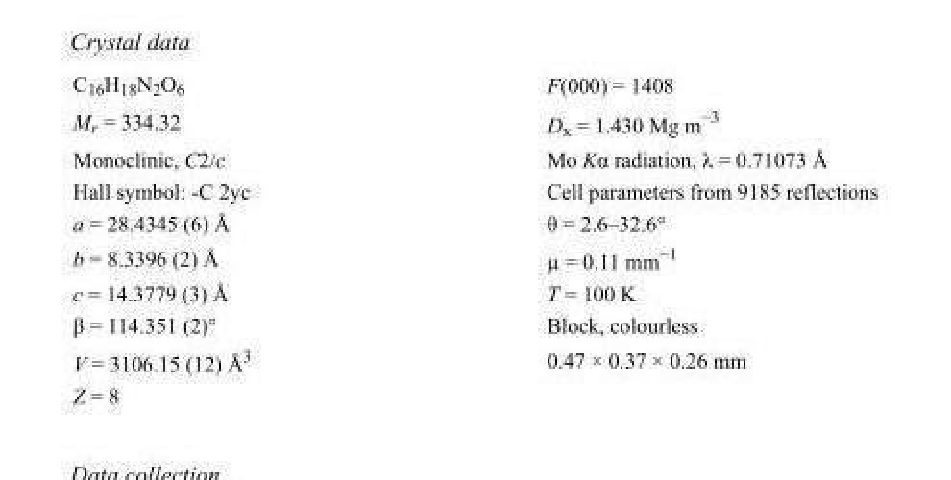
<table><tbody><tr><td>C<sub>16</sub>H<sub>18</sub>N<sub>2</sub>O<sub>6</sub></td><td>F(000) = 1408</td></tr><tr><td>M<sub>r</sub> = 334.32</td><td>D<sub>x</sub> = 1.430 Mg m<sup>−3</sup></td></tr><tr><td>Monoclinic, C2/c</td><td>Mo Kα radiation, λ = 0.71073 Å</td></tr><tr><td>Hall symbol: -C 2yc</td><td>Cell parameters from 9185 reflections</td></tr><tr><td>a = 28.4345 (6) Å</td><td>θ = 2.6–32.6°</td></tr><tr><td>b = 8.3396 (2) Å</td><td>µ = 0.11 mm<sup>−1</sup></td></tr><tr><td>c = 14.3779 (3) Å</td><td>T = 100 K</td></tr><tr><td>β = 114.351 (2)°</td><td>Block, colourless</td></tr><tr><td>V = 3106.15 (12) Å<sup>3</sup></td><td>0.47 × 0.37 × 0.26 mm</td></tr><tr><td>Z = 8</td><td></td></tr></tbody></table>